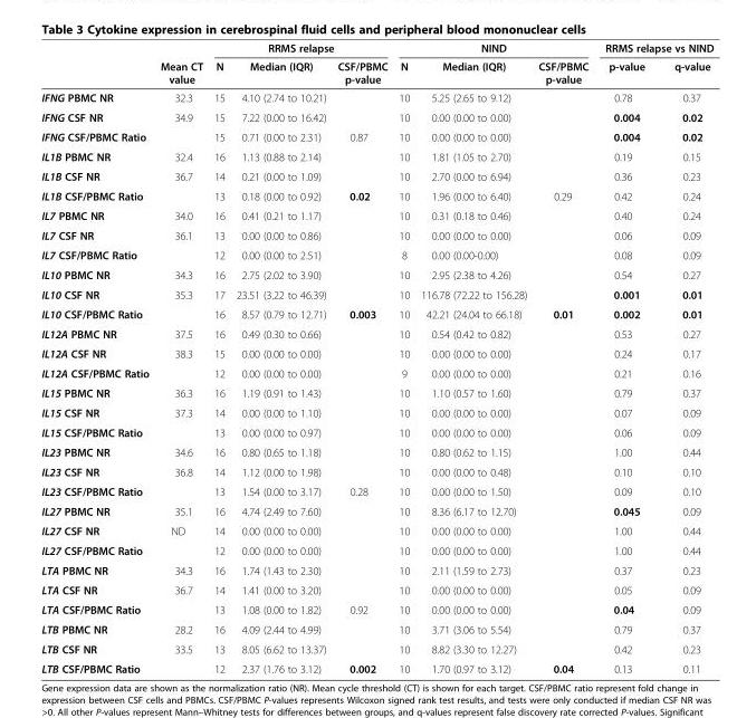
<table><thead><tr><td rowspan="2"></td><td rowspan="2">Mean CT value</td><td colspan="3">RRMS relapse</td><td colspan="3">NIND</td><td colspan="2">RRMS relapse vs NIND</td></tr><tr><td>N</td><td>Median (IQR)</td><td>CSF/PBMC p-value</td><td>N</td><td>Median (IQR)</td><td>CSF/PBMC p-value</td><td>p-value</td><td>q-value</td></tr></thead><tbody><tr><td>IFNG PBMC NR</td><td>32.3</td><td>15</td><td>4.10 (2.74 to 10.21)</td><td></td><td>10</td><td>5.25 (2.65 to 9.12)</td><td></td><td>0.78</td><td>0.37</td></tr><tr><td>IFNG CSF NR</td><td>34.9</td><td>15</td><td>7.22 (0.00 to 16.42)</td><td></td><td>10</td><td>0.00 (0.00 to 0.00)</td><td></td><td>0.004</td><td>0.02</td></tr><tr><td>IFNG CSF/PBMC Ratio</td><td></td><td>15</td><td>0.71 (0.00 to 2.31)</td><td>0.87</td><td>10</td><td>0.00 (0.00 to 0.00)</td><td></td><td>0.004</td><td>0.02</td></tr><tr><td>IL1B PBMC NR</td><td>32.4</td><td>16</td><td>1.13 (0.88 to 2.14)</td><td></td><td>10</td><td>1.81 (1.05 to 2.70)</td><td></td><td>0.19</td><td>0.15</td></tr><tr><td>IL1B CSF NR</td><td>36.7</td><td>14</td><td>0.21 (0.00 to 1.09)</td><td></td><td>10</td><td>2.70 (0.00 to 6.94)</td><td></td><td>0.36</td><td>0.23</td></tr><tr><td>IL1B CSF/PBMC Ratio</td><td></td><td>13</td><td>0.18 (0.00 to 0.92)</td><td>0.02</td><td>10</td><td>1.96 (0.00 to 6.40)</td><td>0.29</td><td>0.42</td><td>0.24</td></tr><tr><td>IL7 PBMC NR</td><td>34.0</td><td>16</td><td>0.41 (0.21 to 1.17)</td><td></td><td>10</td><td>0.31 (0.18 to 0.46)</td><td></td><td>0.40</td><td>0.24</td></tr><tr><td>IL7 CSF NR</td><td>36.1</td><td>13</td><td>0.00 (0.00 to 0.86)</td><td></td><td>10</td><td>0.00 (0.00 to 0.00)</td><td></td><td>0.06</td><td>0.09</td></tr><tr><td>IL7 CSF/PBMC Ratio</td><td></td><td>12</td><td>0.00 (0.00 to 2.51)</td><td></td><td>8</td><td>0.00 (0.00-0.00)</td><td></td><td>0.08</td><td>0.09</td></tr><tr><td>IL10 PBMC NR</td><td>34.3</td><td>16</td><td>2.75 (2.02 to 3.90)</td><td></td><td>10</td><td>2.95 (2.38 to 4.26)</td><td></td><td>0.54</td><td>0.27</td></tr><tr><td>IL10 CSF NR</td><td>35.3</td><td>17</td><td>23.51 (3.22 to 46.39)</td><td></td><td>10</td><td>116.78 (72.22 to 156.28)</td><td></td><td>0.001</td><td>0.01</td></tr><tr><td>IL10 CSF/PBMC Ratio</td><td></td><td>16</td><td>8.57 (0.79 to 12.71)</td><td>0.003</td><td>10</td><td>42.21 (24.04 to 66.18)</td><td>0.01</td><td>0.002</td><td>0.01</td></tr><tr><td>IL12A PBMC NR</td><td>37.5</td><td>16</td><td>0.49 (0.30 to 0.66)</td><td></td><td>10</td><td>0.54 (0.42 to 0.82)</td><td></td><td>0.53</td><td>0.27</td></tr><tr><td>IL12A CSF NR</td><td>38.3</td><td>15</td><td>0.00 (0.00 to 0.00)</td><td></td><td>10</td><td>0.00 (0.00 to 0.00)</td><td></td><td>0.24</td><td>0.17</td></tr><tr><td>IL12A CSF/PBMC Ratio</td><td></td><td>12</td><td>0.00 (0.00 to 0.00)</td><td></td><td>9</td><td>0.00 (0.00 to 0.00)</td><td></td><td>0.21</td><td>0.16</td></tr><tr><td>IL15 PBMC NR</td><td>36.3</td><td>16</td><td>1.19 (0.91 to 1.43)</td><td></td><td>10</td><td>1.10 (0.57 to 1.60)</td><td></td><td>0.79</td><td>0.37</td></tr><tr><td>IL15 CSF NR</td><td>37.3</td><td>14</td><td>0.00 (0.00 to 1.10)</td><td></td><td>10</td><td>0.00 (0.00 to 0.00)</td><td></td><td>0.07</td><td>0.09</td></tr><tr><td>IL15 CSF/PBMC Ratio</td><td></td><td>13</td><td>0.00 (0.00 to 0.97)</td><td></td><td>10</td><td>0.00 (0.00 to 0.00)</td><td></td><td>0.06</td><td>0.09</td></tr><tr><td>IL23 PBMC NR</td><td>34.6</td><td>16</td><td>0.80 (0.65 to 1.18)</td><td></td><td>10</td><td>0.80 (0.62 to 1.15)</td><td></td><td>1.00</td><td>0.44</td></tr><tr><td>IL23 CSF NR</td><td>36.8</td><td>14</td><td>1.12 (0.00 to 1.98)</td><td></td><td>10</td><td>0.00 (0.00 to 0.48)</td><td></td><td>0.10</td><td>0.10</td></tr><tr><td>IL23 CSF/PBMC Ratio</td><td></td><td>13</td><td>1.54 (0.00 to 3.17)</td><td>0.28</td><td>10</td><td>0.00 (0.00 to 1.50)</td><td></td><td>0.09</td><td>0.10</td></tr><tr><td>IL27 PBMC NR</td><td>35.1</td><td>16</td><td>4.74 (2.49 to 7.60)</td><td></td><td>10</td><td>8.36 (6.17 to 12.70)</td><td></td><td>0.045</td><td>0.09</td></tr><tr><td>IL27 CSF NR</td><td>ND</td><td>14</td><td>0.00 (0.00 to 0.00)</td><td></td><td>10</td><td>0.00 (0.00 to 0.00)</td><td></td><td>1.00</td><td>0.44</td></tr><tr><td>IL27 CSF/PBMC Ratio</td><td></td><td>12</td><td>0.00 (0.00 to 0.00)</td><td></td><td>10</td><td>0.00 (0.00 to 0.00)</td><td></td><td>1.00</td><td>0.44</td></tr><tr><td>LTA PBMC NR</td><td>34.3</td><td>16</td><td>1.74 (1.43 to 2.30)</td><td></td><td>10</td><td>2.11 (1.59 to 2.73)</td><td></td><td>0.37</td><td>0.23</td></tr><tr><td>LTA CSF NR</td><td>36.7</td><td>14</td><td>1.41 (0.00 to 3.20)</td><td></td><td>10</td><td>0.00 (0.00 to 0.00)</td><td></td><td>0.05</td><td>0.09</td></tr><tr><td>LTA CSF/PBMC Ratio</td><td></td><td>13</td><td>1.08 (0.00 to 1.82)</td><td>0.92</td><td>10</td><td>0.00 (0.00 to 0.00)</td><td></td><td>0.04</td><td>0.09</td></tr><tr><td>LTB PBMC NR</td><td>28.2</td><td>16</td><td>4.09 (2.44 to 4.99)</td><td></td><td>10</td><td>3.71 (3.06 to 5.54)</td><td></td><td>0.79</td><td>0.37</td></tr><tr><td>LTB CSF NR</td><td>33.5</td><td>13</td><td>8.05 (6.62 to 13.37)</td><td></td><td>10</td><td>8.82 (3.30 to 12.27)</td><td></td><td>0.42</td><td>0.23</td></tr><tr><td>LTB CSF/PBMC Ratio</td><td></td><td>12</td><td>2.37 (1.76 to 3.12)</td><td>0.002</td><td>10</td><td>1.70 (0.97 to 3.12)</td><td>0.04</td><td>0.13</td><td>0.11</td></tr></tbody></table>